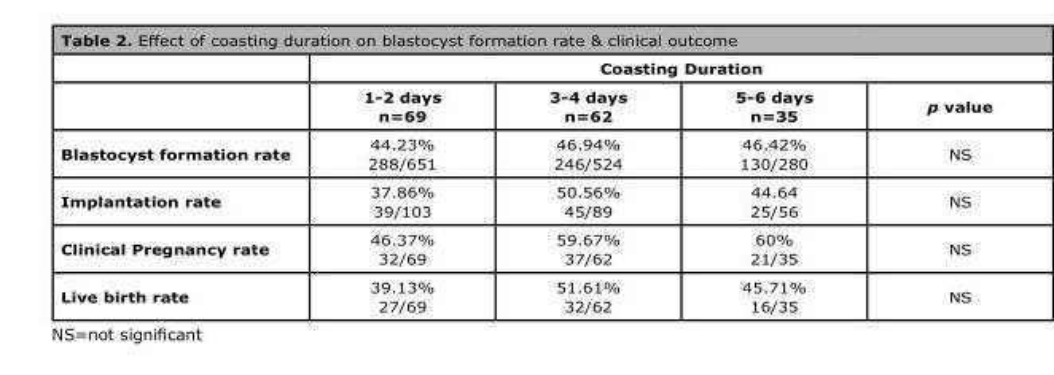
<table><thead><tr><td rowspan="2"></td><td colspan="4">Coasting Duration</td></tr><tr><td>1-2 days n=69</td><td>3-4 days n=62</td><td>5-6 days n=35</td><td>p value</td></tr></thead><tbody><tr><td>Blastocyst formation rate</td><td>44.23% 288/651</td><td>46.94% 246/524</td><td>46.42% 130/280</td><td>NS</td></tr><tr><td>Implantation rate</td><td>37.86% 39/103</td><td>50.56% 45/89</td><td>44.64 25/56</td><td>NS</td></tr><tr><td>Clinical Pregnancy rate</td><td>46.37% 32/69</td><td>59.67% 37/62</td><td>60% 21/35</td><td>NS</td></tr><tr><td>Live birth rate</td><td>39.13% 27/69</td><td>51.61% 32/62</td><td>45.71% 16/35</td><td>NS</td></tr></tbody></table>